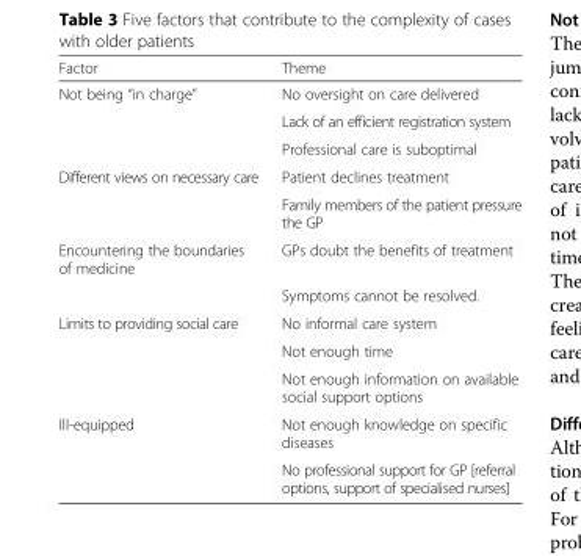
<table><thead><tr><td>Factor</td><td>Theme</td></tr></thead><tbody><tr><td rowspan="3">Not being “in charge”</td><td>No oversight on care delivered</td></tr><tr><td>Lack of an efficient registration system</td></tr><tr><td>Professional care is suboptimal</td></tr><tr><td rowspan="2">Different views on necessary care</td><td>Patient declines treatment</td></tr><tr><td>Family members of the patient pressure the GP</td></tr><tr><td rowspan="2">Encountering the boundaries of medicine</td><td>GPs doubt the benefits of treatment</td></tr><tr><td>Symptoms cannot be resolved.</td></tr><tr><td rowspan="3">Limits to providing social care</td><td>No informal care system</td></tr><tr><td>Not enough time</td></tr><tr><td>Not enough information on available social support options</td></tr><tr><td rowspan="2">Ill-equipped</td><td>Not enough knowledge on specific diseases</td></tr><tr><td>No professional support for GP [referral options, support of specialised nurses]</td></tr></tbody></table>